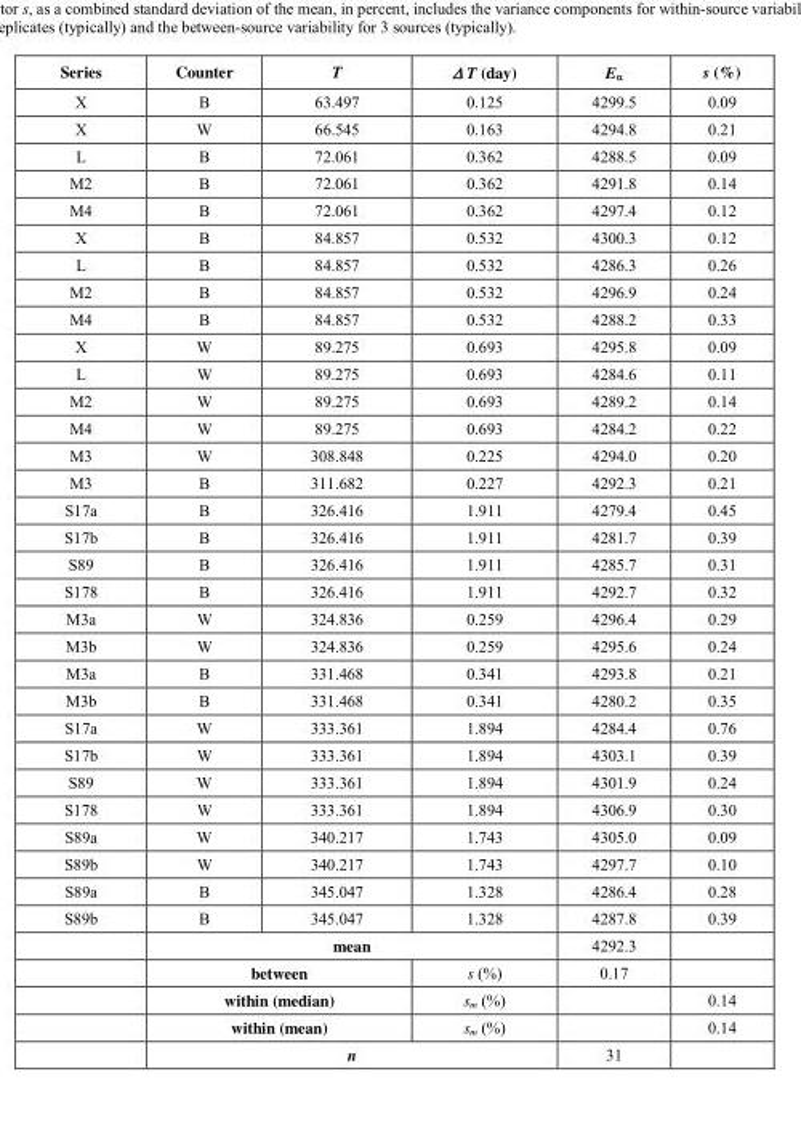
<table><thead><tr><td>Series</td><td>Counter</td><td>T</td><td>∆ T (day)</td><td>Eα</td><td>s (%)</td></tr></thead><tbody><tr><td>X</td><td>B</td><td>63.497</td><td>0.125</td><td>4299.5</td><td>0.09</td></tr><tr><td>X</td><td>W</td><td>66.545</td><td>0.163</td><td>4294.8</td><td>0.21</td></tr><tr><td>L</td><td>B</td><td>72.061</td><td>0.362</td><td>4288.5</td><td>0.09</td></tr><tr><td>M2</td><td>B</td><td>72.061</td><td>0.362</td><td>4291.8</td><td>0.14</td></tr><tr><td>M4</td><td>B</td><td>72.061</td><td>0.362</td><td>4297.4</td><td>0.12</td></tr><tr><td>X</td><td>B</td><td>84.857</td><td>0.532</td><td>4300.3</td><td>0.12</td></tr><tr><td>L</td><td>B</td><td>84.857</td><td>0.532</td><td>4286.3</td><td>0.26</td></tr><tr><td>M2</td><td>B</td><td>84.857</td><td>0.532</td><td>4296.9</td><td>0.24</td></tr><tr><td>M4</td><td>B</td><td>84.857</td><td>0.532</td><td>4288.2</td><td>0.33</td></tr><tr><td>X</td><td>W</td><td>89.275</td><td>0.693</td><td>4295.8</td><td>0.09</td></tr><tr><td>L</td><td>W</td><td>89.275</td><td>0.693</td><td>4284.6</td><td>0.11</td></tr><tr><td>M2</td><td>W</td><td>89.275</td><td>0.693</td><td>4289.2</td><td>0.14</td></tr><tr><td>M4</td><td>W</td><td>89.275</td><td>0.693</td><td>4284.2</td><td>0.22</td></tr><tr><td>M3</td><td>W</td><td>308.848</td><td>0.225</td><td>4294.0</td><td>0.20</td></tr><tr><td>M3</td><td>B</td><td>311.682</td><td>0.227</td><td>4292.3</td><td>0.21</td></tr><tr><td>S17a</td><td>B</td><td>326.416</td><td>1.911</td><td>4279.4</td><td>0.45</td></tr><tr><td>S17b</td><td>B</td><td>326.416</td><td>1.911</td><td>4281.7</td><td>0.39</td></tr><tr><td>S89</td><td>B</td><td>326.416</td><td>1.911</td><td>4285.7</td><td>0.31</td></tr><tr><td>S178</td><td>B</td><td>326.416</td><td>1.911</td><td>4292.7</td><td>0.32</td></tr><tr><td>M3a</td><td>W</td><td>324.836</td><td>0.259</td><td>4296.4</td><td>0.29</td></tr><tr><td>M3b</td><td>W</td><td>324.836</td><td>0.259</td><td>4295.6</td><td>0.24</td></tr><tr><td>M3a</td><td>B</td><td>331.468</td><td>0.341</td><td>4293.8</td><td>0.21</td></tr><tr><td>M3b</td><td>B</td><td>331.468</td><td>0.341</td><td>4280.2</td><td>0.35</td></tr><tr><td>S17a</td><td>W</td><td>333.361</td><td>1.894</td><td>4284.4</td><td>0.76</td></tr><tr><td>S17b</td><td>W</td><td>333.361</td><td>1.894</td><td>4303.1</td><td>0.39</td></tr><tr><td>S89</td><td>W</td><td>333.361</td><td>1.894</td><td>4301.9</td><td>0.24</td></tr><tr><td>S178</td><td>W</td><td>333.361</td><td>1.894</td><td>4306.9</td><td>0.30</td></tr><tr><td>S89a</td><td>W</td><td>340.217</td><td>1.743</td><td>4305.0</td><td>0.09</td></tr><tr><td>S89b</td><td>W</td><td>340.217</td><td>1.743</td><td>4297.7</td><td>0.10</td></tr><tr><td>S89a</td><td>B</td><td>345.047</td><td>1.328</td><td>4286.4</td><td>0.28</td></tr><tr><td rowspan="6">S89b</td><td>B</td><td>345.047</td><td>1.328</td><td>4287.8</td><td>0.39</td></tr><tr><td colspan="3">mean</td><td>4292.3</td><td></td></tr><tr><td colspan="2">between</td><td>s (%)</td><td>0.17</td><td></td></tr><tr><td colspan="2">within (median)</td><td>s<sub>m</sub> (%)</td><td></td><td>0.14</td></tr><tr><td colspan="2">within (mean)</td><td>s<sub>m</sub> (%)</td><td></td><td>0.14</td></tr><tr><td colspan="3">n</td><td>31</td><td></td></tr></tbody></table>